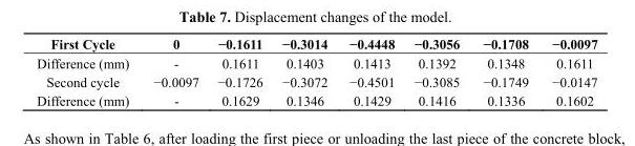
<table><thead><tr><td>First Cycle</td><td>0</td><td>−0.1611</td><td>−0.3014</td><td>−0.4448</td><td>−0.3056</td><td>−0.1708</td><td>−0.0097</td></tr></thead><tbody><tr><td>Difference (mm)</td><td>-</td><td>0.1611</td><td>0.1403</td><td>0.1413</td><td>0.1392</td><td>0.1348</td><td>0.1611</td></tr><tr><td>Second cycle</td><td>−0.0097</td><td>−0.1726</td><td>−0.3072</td><td>−0.4501</td><td>−0.3085</td><td>−0.1749</td><td>−0.0147</td></tr><tr><td>Difference (mm)</td><td>-</td><td>0.1629</td><td>0.1346</td><td>0.1429</td><td>0.1416</td><td>0.1336</td><td>0.1602</td></tr></tbody></table>